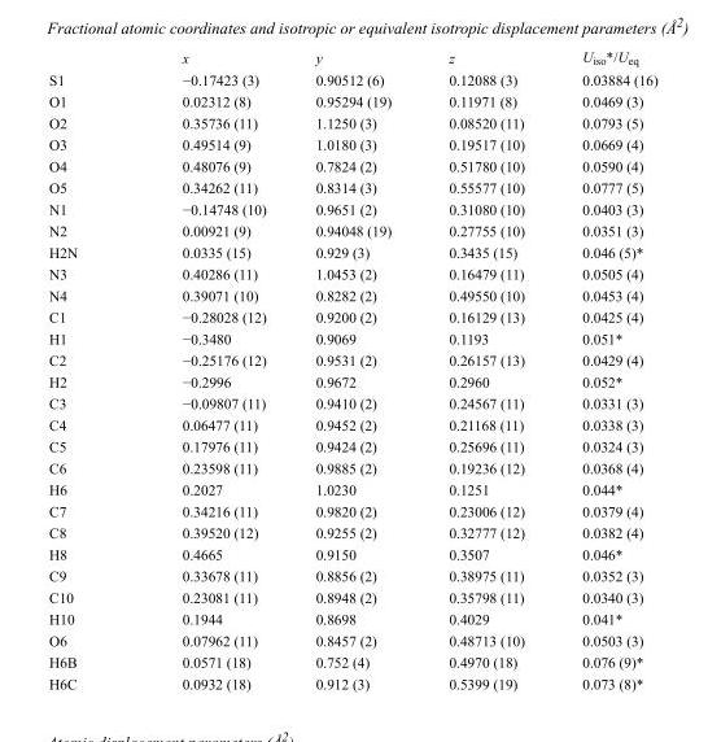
<table><thead><tr><td></td><td>x</td><td>y</td><td>z</td><td>U<sub>iso</sub>*/U<sub>eq</sub></td></tr></thead><tbody><tr><td>S1</td><td>−0.17423 (3)</td><td>0.90512 (6)</td><td>0.12088 (3)</td><td>0.03884 (16)</td></tr><tr><td>O1</td><td>0.02312 (8)</td><td>0.95294 (19)</td><td>0.11971 (8)</td><td>0.0469 (3)</td></tr><tr><td>O2</td><td>0.35736 (11)</td><td>1.1250 (3)</td><td>0.08520 (11)</td><td>0.0793 (5)</td></tr><tr><td>O3</td><td>0.49514 (9)</td><td>1.0180 (3)</td><td>0.19517 (10)</td><td>0.0669 (4)</td></tr><tr><td>O4</td><td>0.48076 (9)</td><td>0.7824 (2)</td><td>0.51780 (10)</td><td>0.0590 (4)</td></tr><tr><td>O5</td><td>0.34262 (11)</td><td>0.8314 (3)</td><td>0.55577 (10)</td><td>0.0777 (5)</td></tr><tr><td>N1</td><td>−0.14748 (10)</td><td>0.9651 (2)</td><td>0.31080 (10)</td><td>0.0403 (3)</td></tr><tr><td>N2</td><td>0.00921 (9)</td><td>0.94048 (19)</td><td>0.27755 (10)</td><td>0.0351 (3)</td></tr><tr><td>H2N</td><td>0.0335 (15)</td><td>0.929 (3)</td><td>0.3435 (15)</td><td>0.046 (5)*</td></tr><tr><td>N3</td><td>0.40286 (11)</td><td>1.0453 (2)</td><td>0.16479 (11)</td><td>0.0505 (4)</td></tr><tr><td>N4</td><td>0.39071 (10)</td><td>0.8282 (2)</td><td>0.49550 (10)</td><td>0.0453 (4)</td></tr><tr><td>C1</td><td>−0.28028 (12)</td><td>0.9200 (2)</td><td>0.16129 (13)</td><td>0.0425 (4)</td></tr><tr><td>H1</td><td>−0.3480</td><td>0.9069</td><td>0.1193</td><td>0.051*</td></tr><tr><td>C2</td><td>−0.25176 (12)</td><td>0.9531 (2)</td><td>0.26157 (13)</td><td>0.0429 (4)</td></tr><tr><td>H2</td><td>−0.2996</td><td>0.9672</td><td>0.2960</td><td>0.052*</td></tr><tr><td>C3</td><td>−0.09807 (11)</td><td>0.9410 (2)</td><td>0.24567 (11)</td><td>0.0331 (3)</td></tr><tr><td>C4</td><td>0.06477 (11)</td><td>0.9452 (2)</td><td>0.21168 (11)</td><td>0.0338 (3)</td></tr><tr><td>C5</td><td>0.17976 (11)</td><td>0.9424 (2)</td><td>0.25696 (11)</td><td>0.0324 (3)</td></tr><tr><td>C6</td><td>0.23598 (11)</td><td>0.9885 (2)</td><td>0.19236 (12)</td><td>0.0368 (4)</td></tr><tr><td>H6</td><td>0.2027</td><td>1.0230</td><td>0.1251</td><td>0.044*</td></tr><tr><td>C7</td><td>0.34216 (11)</td><td>0.9820 (2)</td><td>0.23006 (12)</td><td>0.0379 (4)</td></tr><tr><td>C8</td><td>0.39520 (12)</td><td>0.9255 (2)</td><td>0.32777 (12)</td><td>0.0382 (4)</td></tr><tr><td>H8</td><td>0.4665</td><td>0.9150</td><td>0.3507</td><td>0.046*</td></tr><tr><td>C9</td><td>0.33678 (11)</td><td>0.8856 (2)</td><td>0.38975 (11)</td><td>0.0352 (3)</td></tr><tr><td>C10</td><td>0.23081 (11)</td><td>0.8948 (2)</td><td>0.35798 (11)</td><td>0.0340 (3)</td></tr><tr><td>H10</td><td>0.1944</td><td>0.8698</td><td>0.4029</td><td>0.041*</td></tr><tr><td>O6</td><td>0.07962 (11)</td><td>0.8457 (2)</td><td>0.48713 (10)</td><td>0.0503 (3)</td></tr><tr><td>H6B</td><td>0.0571 (18)</td><td>0.752 (4)</td><td>0.4970 (18)</td><td>0.076 (9)*</td></tr><tr><td>H6C</td><td>0.0932 (18)</td><td>0.912 (3)</td><td>0.5399 (19)</td><td>0.073 (8)*</td></tr></tbody></table>